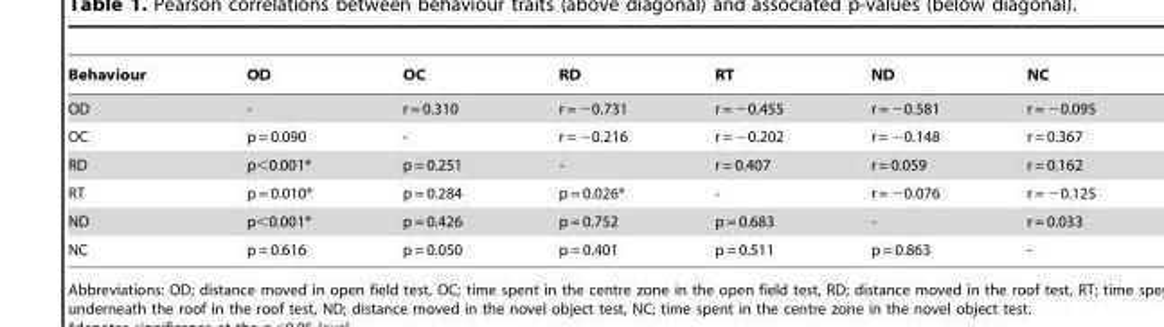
<table><thead><tr><td>Behaviour</td><td>OD</td><td>OC</td><td>RD</td><td>RT</td><td>ND</td><td>NC</td></tr></thead><tbody><tr><td>OD</td><td>-</td><td>r = 0.310</td><td>r = −0.731</td><td>r = −0.455</td><td>r = −0.581</td><td>r = −0.095</td></tr><tr><td>OC</td><td>p = 0.090</td><td>-</td><td>r = −0.216</td><td>r = −0.202</td><td>r = −0.148</td><td>r = 0.367</td></tr><tr><td>RD</td><td>p&lt;0.001*</td><td>p = 0.251</td><td>-</td><td>r = 0.407</td><td>r = 0.059</td><td>r = 0.162</td></tr><tr><td>RT</td><td>p = 0.010*</td><td>p = 0.284</td><td>p = 0.026*</td><td>-</td><td>r = −0.076</td><td>r = −0.125</td></tr><tr><td>ND</td><td>p&lt;0.001*</td><td>p = 0.426</td><td>p = 0.752</td><td>p = 0.683</td><td>-</td><td>r = 0.033</td></tr><tr><td>NC</td><td>p = 0.616</td><td>p = 0.050</td><td>p = 0.401</td><td>p = 0.511</td><td>p = 0.863</td><td>-</td></tr></tbody></table>